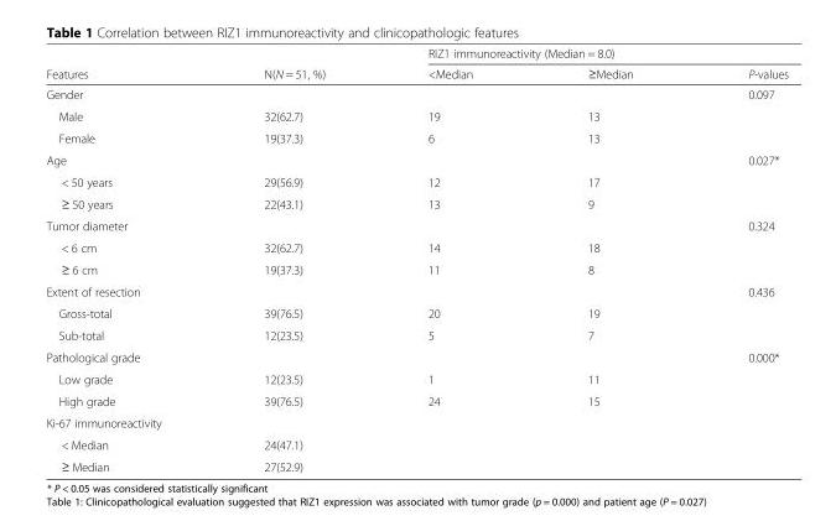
<table><thead><tr><td rowspan="2">Features</td><td rowspan="2">N(N = 51, %)</td><td colspan="3">RIZ1 immunoreactivity (Median = 8.0)</td></tr><tr><td>&lt;Median</td><td>≥Median</td><td>P-values</td></tr></thead><tbody><tr><td>Gender</td><td></td><td></td><td></td><td>0.097</td></tr><tr><td>Male</td><td>32(62.7)</td><td>19</td><td>13</td><td></td></tr><tr><td>Female</td><td>19(37.3)</td><td>6</td><td>13</td><td></td></tr><tr><td>Age</td><td></td><td></td><td></td><td>0.027*</td></tr><tr><td>&lt; 50 years</td><td>29(56.9)</td><td>12</td><td>17</td><td></td></tr><tr><td>≥ 50 years</td><td>22(43.1)</td><td>13</td><td>9</td><td></td></tr><tr><td>Tumor diameter</td><td></td><td></td><td></td><td>0.324</td></tr><tr><td>&lt; 6 cm</td><td>32(62.7)</td><td>14</td><td>18</td><td></td></tr><tr><td>≥ 6 cm</td><td>19(37.3)</td><td>11</td><td>8</td><td></td></tr><tr><td>Extent of resection</td><td></td><td></td><td></td><td>0.436</td></tr><tr><td>Gross-total</td><td>39(76.5)</td><td>20</td><td>19</td><td></td></tr><tr><td>Sub-total</td><td>12(23.5)</td><td>5</td><td>7</td><td></td></tr><tr><td>Pathological grade</td><td></td><td></td><td></td><td>0.000*</td></tr><tr><td>Low grade</td><td>12(23.5)</td><td>1</td><td>11</td><td></td></tr><tr><td>High grade</td><td>39(76.5)</td><td>24</td><td>15</td><td></td></tr><tr><td colspan="5">Ki-67 immunoreactivity</td></tr><tr><td>&lt; Median</td><td>24(47.1)</td><td colspan="3"></td></tr><tr><td>≥ Median</td><td>27(52.9)</td><td colspan="3"></td></tr></tbody></table>